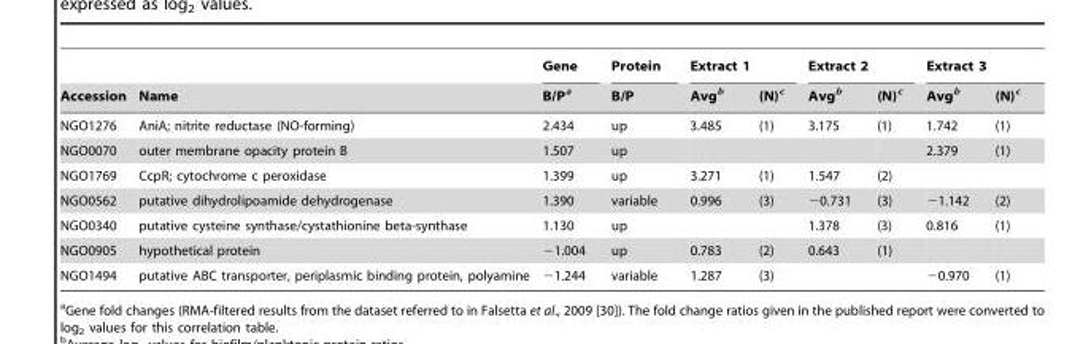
<table><thead><tr><td rowspan="2">Accession</td><td rowspan="2">Name</td><td rowspan="2">Gene B/P<sup>a</sup></td><td rowspan="2">Protein B/P</td><td colspan="2">Extract 1</td><td colspan="2">Extract 2</td><td colspan="2">Extract 3</td></tr><tr><td>Avg<sup>b</sup></td><td>(N)<sup>c</sup></td><td>Avg<sup>b</sup></td><td>(N)<sup>c</sup></td><td>Avg<sup>b</sup></td><td>(N)<sup>c</sup></td></tr></thead><tbody><tr><td>NGO1276</td><td>AniA; nitrite reductase (NO-forming)</td><td>2.434</td><td>up</td><td>3.485</td><td>(1)</td><td>3.175</td><td>(1)</td><td>1.742</td><td>(1)</td></tr><tr><td>NGO0070</td><td>outer membrane opacity protein B</td><td>1.507</td><td>up</td><td></td><td></td><td></td><td></td><td>2.379</td><td>(1)</td></tr><tr><td>NGO1769</td><td>CcpR; cytochrome c peroxidase</td><td>1.399</td><td>up</td><td>3.271</td><td>(1)</td><td>1.547</td><td>(2)</td><td></td><td></td></tr><tr><td>NGO0562</td><td>putative dihydrolipoamide dehydrogenase</td><td>1.390</td><td>variable</td><td>0.996</td><td>(3)</td><td>−0.731</td><td>(3)</td><td>−1.142</td><td>(2)</td></tr><tr><td>NGO0340</td><td>putative cysteine synthase/cystathionine beta-synthase</td><td>1.130</td><td>up</td><td></td><td></td><td>1.378</td><td>(3)</td><td>0.816</td><td>(1)</td></tr><tr><td>NGO0905</td><td>hypothetical protein</td><td>−1.004</td><td>up</td><td>0.783</td><td>(2)</td><td>0.643</td><td>(1)</td><td></td><td></td></tr><tr><td>NGO1494</td><td>putative ABC transporter, periplasmic binding protein, polyamine</td><td>−1.244</td><td>variable</td><td>1.287</td><td>(3)</td><td></td><td></td><td>−0.970</td><td>(1)</td></tr></tbody></table>